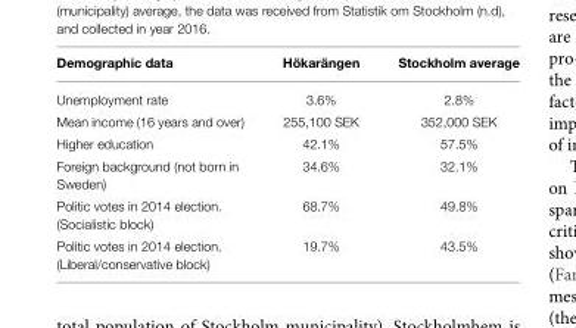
<table><thead><tr><td>Demographic data</td><td>Hökarängen</td><td>Stockholm average</td></tr></thead><tbody><tr><td>Unemployment rate</td><td>3.6%</td><td>2.8%</td></tr><tr><td>Mean income (16 years and over)</td><td>255,100 SEK</td><td>352,000 SEK</td></tr><tr><td>Higher education</td><td>42.1%</td><td>57.5%</td></tr><tr><td>Foreign background (not born in Sweden)</td><td>34.6%</td><td>32.1%</td></tr><tr><td>Politic votes in 2014 election. (Socialistic block)</td><td>68.7%</td><td>49.8%</td></tr><tr><td>Politic votes in 2014 election. (Liberal/conservative block)</td><td>19.7%</td><td>43.5%</td></tr></tbody></table>